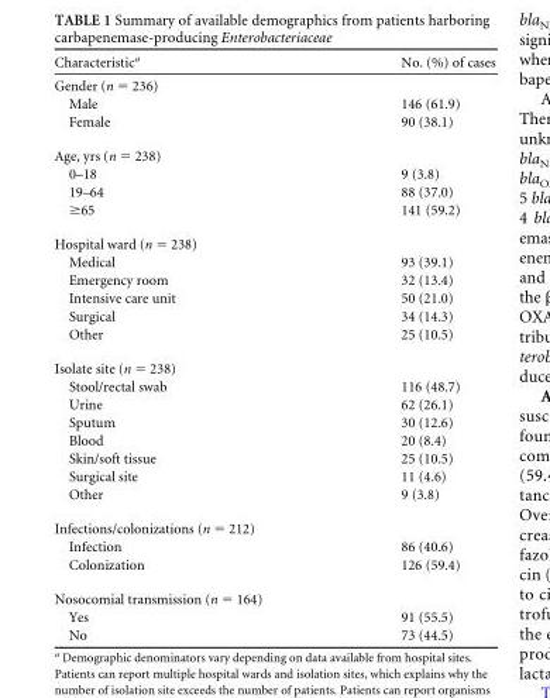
<table><thead><tr><td>Characteristic<sup>a</sup></td><td>No. (%) of cases</td></tr></thead><tbody><tr><td colspan="2">Gender (n = 236)</td></tr><tr><td>Male</td><td>146 (61.9)</td></tr><tr><td>Female</td><td>90 (38.1)</td></tr><tr><td colspan="2">Age, yrs (n = 238)</td></tr><tr><td>0–18</td><td>9 (3.8)</td></tr><tr><td>19–64</td><td>88 (37.0)</td></tr><tr><td>≥65</td><td>141 (59.2)</td></tr><tr><td colspan="2">Hospital ward (n = 238)</td></tr><tr><td>Medical</td><td>93 (39.1)</td></tr><tr><td>Emergency room</td><td>32 (13.4)</td></tr><tr><td>Intensive care unit</td><td>50 (21.0)</td></tr><tr><td>Surgical</td><td>34 (14.3)</td></tr><tr><td>Other</td><td>25 (10.5)</td></tr><tr><td colspan="2">Isolate site (n = 238)</td></tr><tr><td>Stool/rectal swab</td><td>116 (48.7)</td></tr><tr><td>Urine</td><td>62 (26.1)</td></tr><tr><td>Sputum</td><td>30 (12.6)</td></tr><tr><td>Blood</td><td>20 (8.4)</td></tr><tr><td>Skin/soft tissue</td><td>25 (10.5)</td></tr><tr><td>Surgical site</td><td>11 (4.6)</td></tr><tr><td>Other</td><td>9 (3.8)</td></tr><tr><td colspan="2">Infections/colonizations (n = 212)</td></tr><tr><td>Infection</td><td>86 (40.6)</td></tr><tr><td>Colonization</td><td>126 (59.4)</td></tr><tr><td colspan="2">Nosocomial transmission (n = 164)</td></tr><tr><td>Yes</td><td>91 (55.5)</td></tr><tr><td>No</td><td>73 (44.5)</td></tr></tbody></table>